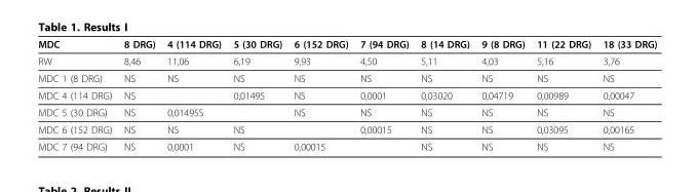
<table><thead><tr><td>MDC</td><td>8 DRG)</td><td>4 (114 DRG)</td><td>5 (30 DRG)</td><td>6 (152 DRG)</td><td>7 (94 DRG)</td><td>8 (14 DRG)</td><td>9 (8 DRG)</td><td>11 (22 DRG)</td><td>18 (33 DRG)</td></tr></thead><tbody><tr><td>RW</td><td>8,46</td><td>11,06</td><td>6,19</td><td>9,93</td><td>4,50</td><td>5,11</td><td>4,03</td><td>5,16</td><td>3,76</td></tr><tr><td>MDC 1 (8 DRG)</td><td>NS</td><td>NS</td><td>NS</td><td>NS</td><td>NS</td><td>NS</td><td>NS</td><td>NS</td><td>NS</td></tr><tr><td>MDC 4 (114 DRG)</td><td>NS</td><td></td><td>0,01495</td><td>NS</td><td>0,0001</td><td>0,03020</td><td>0,04719</td><td>0,00989</td><td>0,00047</td></tr><tr><td>MDC 5 (30 DRG)</td><td>NS</td><td>0,01495S</td><td></td><td>NS</td><td>NS</td><td>NS</td><td>NS</td><td>NS</td><td>NS</td></tr><tr><td>MDC 6 (152 DRG)</td><td>NS</td><td>NS</td><td>NS</td><td></td><td>0,00015</td><td>NS</td><td>NS</td><td>0,03095</td><td>0,00165</td></tr><tr><td>MDC 7 (94 DRG)</td><td>NS</td><td>0,0001</td><td>NS</td><td>0,00015</td><td></td><td>NS</td><td>NS</td><td>NS</td><td>NS</td></tr></tbody></table>